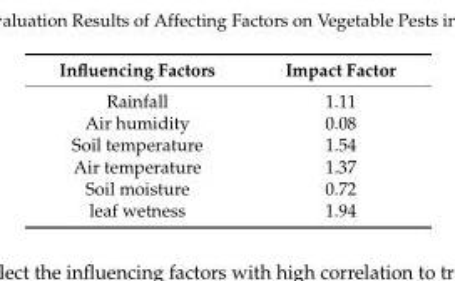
<table><thead><tr><td>Influencing Factors</td><td>Impact Factor</td></tr></thead><tbody><tr><td>Rainfall</td><td>1.11</td></tr><tr><td>Air humidity</td><td>0.08</td></tr><tr><td>Soil temperature</td><td>1.54</td></tr><tr><td>Air temperature</td><td>1.37</td></tr><tr><td>Soil moisture</td><td>0.72</td></tr><tr><td>leaf wetness</td><td>1.94</td></tr></tbody></table>